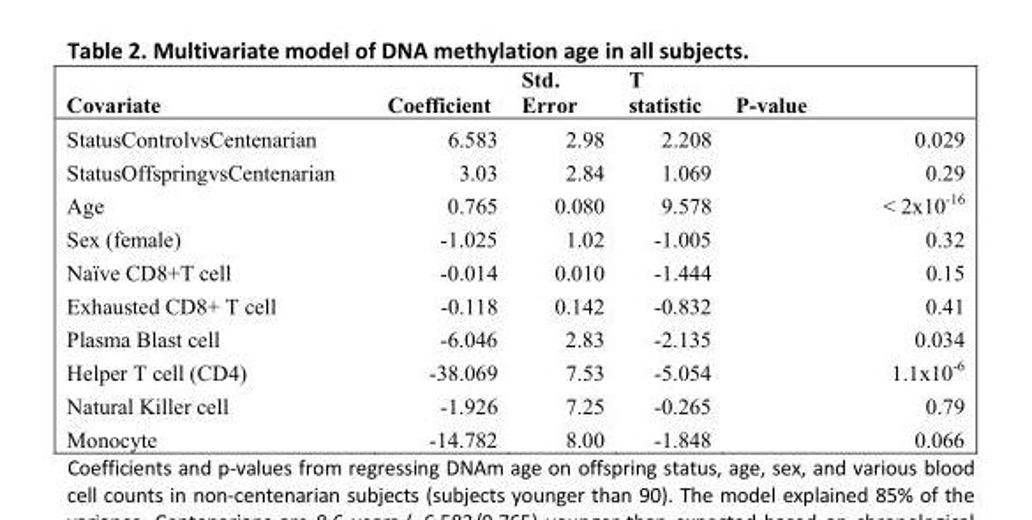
<table><thead><tr><td>Covariate</td><td>Coefficient</td><td>Std. Error</td><td>T statistic</td><td>P-value</td></tr></thead><tbody><tr><td>StatusControlvsCentenarian</td><td>6.583</td><td>2.98</td><td>2.208</td><td>0.029</td></tr><tr><td>StatusOffspringvsCentenarian</td><td>3.03</td><td>2.84</td><td>1.069</td><td>0.29</td></tr><tr><td>Age</td><td>0.765</td><td>0.080</td><td>9.578</td><td>&lt; 2x10-16</td></tr><tr><td>Sex (female)</td><td>-1.025</td><td>1.02</td><td>-1.005</td><td>0.32</td></tr><tr><td>Naïve CD8+T cell</td><td>-0.014</td><td>0.010</td><td>-1.444</td><td>0.15</td></tr><tr><td>Exhausted CD8+ T cell</td><td>-0.118</td><td>0.142</td><td>-0.832</td><td>0.41</td></tr><tr><td>Plasma Blast cell</td><td>-6.046</td><td>2.83</td><td>-2.135</td><td>0.034</td></tr><tr><td>Helper T cell (CD4)</td><td>-38.069</td><td>7.53</td><td>-5.054</td><td>1.1x10-6</td></tr><tr><td>Natural Killer cell</td><td>-1.926</td><td>7.25</td><td>-0.265</td><td>0.79</td></tr><tr><td>Monocyte</td><td>-14.782</td><td>8.00</td><td>-1.848</td><td>0.066</td></tr></tbody></table>